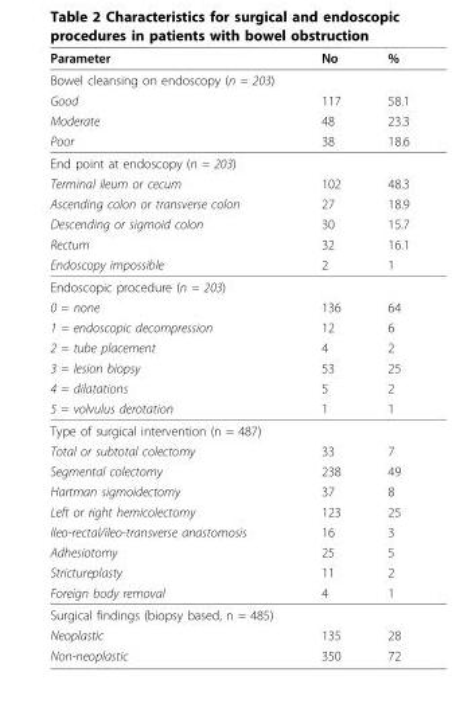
<table><thead><tr><td>Parameter</td><td>No</td><td>%</td></tr></thead><tbody><tr><td colspan="3">Bowel cleansing on endoscopy (n = 203)</td></tr><tr><td>Good</td><td>117</td><td>58.1</td></tr><tr><td>Moderate</td><td>48</td><td>23.3</td></tr><tr><td>Poor</td><td>38</td><td>18.6</td></tr><tr><td colspan="3">End point at endoscopy (n = 203)</td></tr><tr><td>Terminal ileum or cecum</td><td>102</td><td>48.3</td></tr><tr><td>Ascending colon or transverse colon</td><td>27</td><td>18.9</td></tr><tr><td>Descending or sigmoid colon</td><td>30</td><td>15.7</td></tr><tr><td>Rectum</td><td>32</td><td>16.1</td></tr><tr><td>Endoscopy impossible</td><td>2</td><td>1</td></tr><tr><td colspan="3">Endoscopic procedure (n = 203)</td></tr><tr><td>0 = none</td><td>136</td><td>64</td></tr><tr><td>1 = endoscopic decompression</td><td>12</td><td>6</td></tr><tr><td>2 = tube placement</td><td>4</td><td>2</td></tr><tr><td>3 = lesion biopsy</td><td>53</td><td>25</td></tr><tr><td>4 = dilatations</td><td>5</td><td>2</td></tr><tr><td>5 = volvulus derotation</td><td>1</td><td>1</td></tr><tr><td colspan="3">Type of surgical intervention (n = 487)</td></tr><tr><td>Total or subtotal colectomy</td><td>33</td><td>7</td></tr><tr><td>Segmental colectomy</td><td>238</td><td>49</td></tr><tr><td>Hartman sigmoidectomy</td><td>37</td><td>8</td></tr><tr><td>Left or right hemicolectomy</td><td>123</td><td>25</td></tr><tr><td>Ileo-rectal/ileo-transverse anastomosis</td><td>16</td><td>3</td></tr><tr><td>Adhesiotomy</td><td>25</td><td>5</td></tr><tr><td>Strictureplasty</td><td>11</td><td>2</td></tr><tr><td>Foreign body removal</td><td>4</td><td>1</td></tr><tr><td colspan="3">Surgical findings (biopsy based, n = 485)</td></tr><tr><td>Neoplastic</td><td>135</td><td>28</td></tr><tr><td>Non-neoplastic</td><td>350</td><td>72</td></tr></tbody></table>